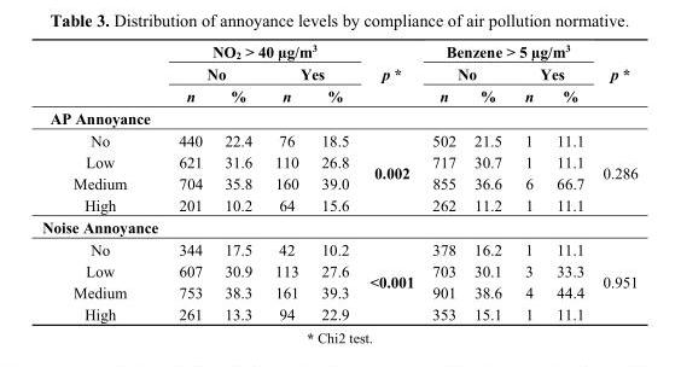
<table><thead><tr><td rowspan="3"></td><td colspan="4">NO<sub>2</sub> &gt; 40 µg/m<sup>3</sup></td><td rowspan="3">p *</td><td colspan="4">Benzene &gt; 5 µg/m<sup>3</sup></td><td rowspan="3">p *</td></tr><tr><td colspan="2">No</td><td colspan="2">Yes</td><td colspan="2">No</td><td colspan="2">Yes</td></tr><tr><td>n</td><td>%</td><td>n</td><td>%</td><td>n</td><td>%</td><td>n</td><td>%</td></tr></thead><tbody><tr><td colspan="11">AP Annoyance</td></tr><tr><td>No</td><td>440</td><td>22.4</td><td>76</td><td>18.5</td><td rowspan="4">0.002</td><td>502</td><td>21.5</td><td>1</td><td>11.1</td><td rowspan="4">0.286</td></tr><tr><td>Low</td><td>621</td><td>31.6</td><td>110</td><td>26.8</td><td>717</td><td>30.7</td><td>1</td><td>11.1</td></tr><tr><td>Medium</td><td>704</td><td>35.8</td><td>160</td><td>39.0</td><td>855</td><td>36.6</td><td>6</td><td>66.7</td></tr><tr><td>High</td><td>201</td><td>10.2</td><td>64</td><td>15.6</td><td>262</td><td>11.2</td><td>1</td><td>11.1</td></tr><tr><td colspan="11">Noise Annoyance</td></tr><tr><td>No</td><td>344</td><td>17.5</td><td>42</td><td>10.2</td><td rowspan="4">&lt;0.001</td><td>378</td><td>16.2</td><td>1</td><td>11.1</td><td rowspan="4">0.951</td></tr><tr><td>Low</td><td>607</td><td>30.9</td><td>113</td><td>27.6</td><td>703</td><td>30.1</td><td>3</td><td>33.3</td></tr><tr><td>Medium</td><td>753</td><td>38.3</td><td>161</td><td>39.3</td><td>901</td><td>38.6</td><td>4</td><td>44.4</td></tr><tr><td>High</td><td>261</td><td>13.3</td><td>94</td><td>22.9</td><td>353</td><td>15.1</td><td>1</td><td>11.1</td></tr></tbody></table>